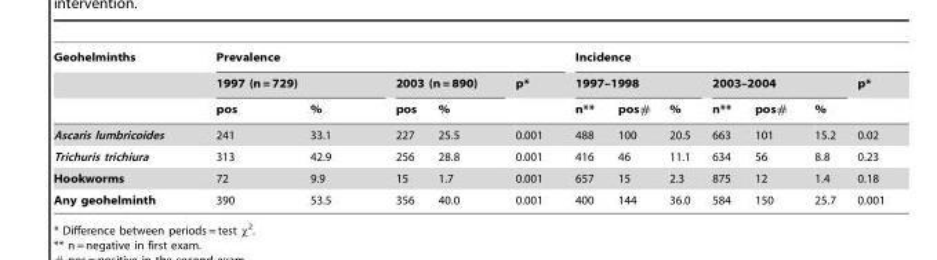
<table><thead><tr><td rowspan="3">Geohelminths</td><td colspan="5">Prevalence</td><td colspan="7">Incidence</td></tr><tr><td colspan="2">1997 (n = 729)</td><td colspan="2">2003 (n = 890)</td><td rowspan="2">p*</td><td colspan="3">1997–1998</td><td colspan="3">2003–2004</td><td rowspan="2">p*</td></tr><tr><td>pos</td><td>%</td><td>pos</td><td>%</td><td>n**</td><td>pos#</td><td>%</td><td>n**</td><td>pos#</td><td>%</td></tr></thead><tbody><tr><td>Ascaris lumbricoides</td><td>241</td><td>33.1</td><td>227</td><td>25.5</td><td>0.001</td><td>488</td><td>100</td><td>20.5</td><td>663</td><td>101</td><td>15.2</td><td>0.02</td></tr><tr><td>Trichuris trichiura</td><td>313</td><td>42.9</td><td>256</td><td>28.8</td><td>0.001</td><td>416</td><td>46</td><td>11.1</td><td>634</td><td>56</td><td>8.8</td><td>0.23</td></tr><tr><td>Hookworms</td><td>72</td><td>9.9</td><td>15</td><td>1.7</td><td>0.001</td><td>657</td><td>15</td><td>2.3</td><td>875</td><td>12</td><td>1.4</td><td>0.18</td></tr><tr><td>Any geohelminth</td><td>390</td><td>53.5</td><td>356</td><td>40.0</td><td>0.001</td><td>400</td><td>144</td><td>36.0</td><td>584</td><td>150</td><td>25.7</td><td>0.001</td></tr></tbody></table>